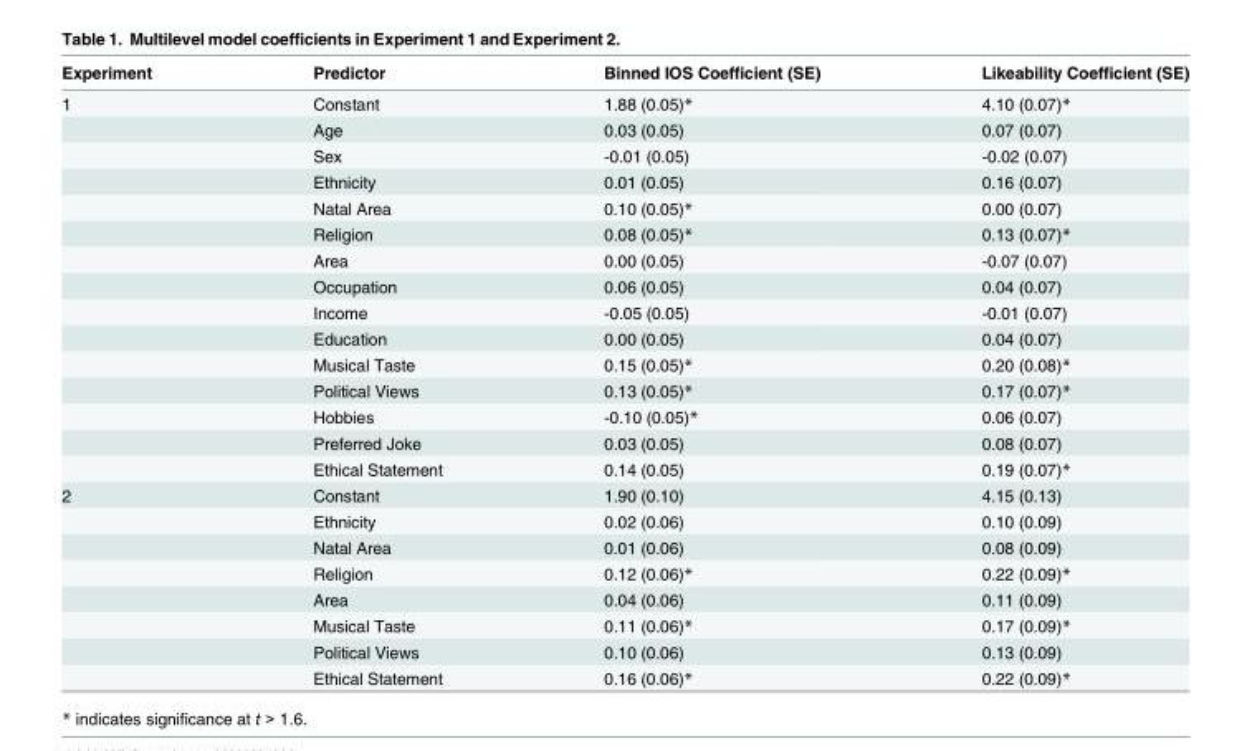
<table><thead><tr><td>Experiment</td><td>Predictor</td><td>Binned IOS Coefficient (SE)</td><td>Likeability Coefficient (SE)</td></tr></thead><tbody><tr><td rowspan="15">1</td><td>Constant</td><td>1.88 (0.05)*</td><td>4.10 (0.07)*</td></tr><tr><td>Age</td><td>0.03 (0.05)</td><td>0.07 (0.07)</td></tr><tr><td>Sex</td><td>-0.01 (0.05)</td><td>-0.02 (0.07)</td></tr><tr><td>Ethnicity</td><td>0.01 (0.05)</td><td>0.16 (0.07)</td></tr><tr><td>Natal Area</td><td>0.10 (0.05)*</td><td>0.00 (0.07)</td></tr><tr><td>Religion</td><td>0.08 (0.05)*</td><td>0.13 (0.07)*</td></tr><tr><td>Area</td><td>0.00 (0.05)</td><td>-0.07 (0.07)</td></tr><tr><td>Occupation</td><td>0.06 (0.05)</td><td>0.04 (0.07)</td></tr><tr><td>Income</td><td>-0.05 (0.05)</td><td>-0.01 (0.07)</td></tr><tr><td>Education</td><td>0.00 (0.05)</td><td>0.04 (0.07)</td></tr><tr><td>Musical Taste</td><td>0.15 (0.05)*</td><td>0.20 (0.08)*</td></tr><tr><td>Political Views</td><td>0.13 (0.05)*</td><td>0.17 (0.07)*</td></tr><tr><td>Hobbies</td><td>-0.10 (0.05)*</td><td>0.06 (0.07)</td></tr><tr><td>Preferred Joke</td><td>0.03 (0.05)</td><td>0.08 (0.07)</td></tr><tr><td>Ethical Statement</td><td>0.14 (0.05)</td><td>0.19 (0.07)*</td></tr><tr><td rowspan="8">2</td><td>Constant</td><td>1.90 (0.10)</td><td>4.15 (0.13)</td></tr><tr><td>Ethnicity</td><td>0.02 (0.06)</td><td>0.10 (0.09)</td></tr><tr><td>Natal Area</td><td>0.01 (0.06)</td><td>0.08 (0.09)</td></tr><tr><td>Religion</td><td>0.12 (0.06)*</td><td>0.22 (0.09)*</td></tr><tr><td>Area</td><td>0.04 (0.06)</td><td>0.11 (0.09)</td></tr><tr><td>Musical Taste</td><td>0.11 (0.06)*</td><td>0.17 (0.09)*</td></tr><tr><td>Political Views</td><td>0.10 (0.06)</td><td>0.13 (0.09)</td></tr><tr><td>Ethical Statement</td><td>0.16 (0.06)*</td><td>0.22 (0.09)*</td></tr></tbody></table>